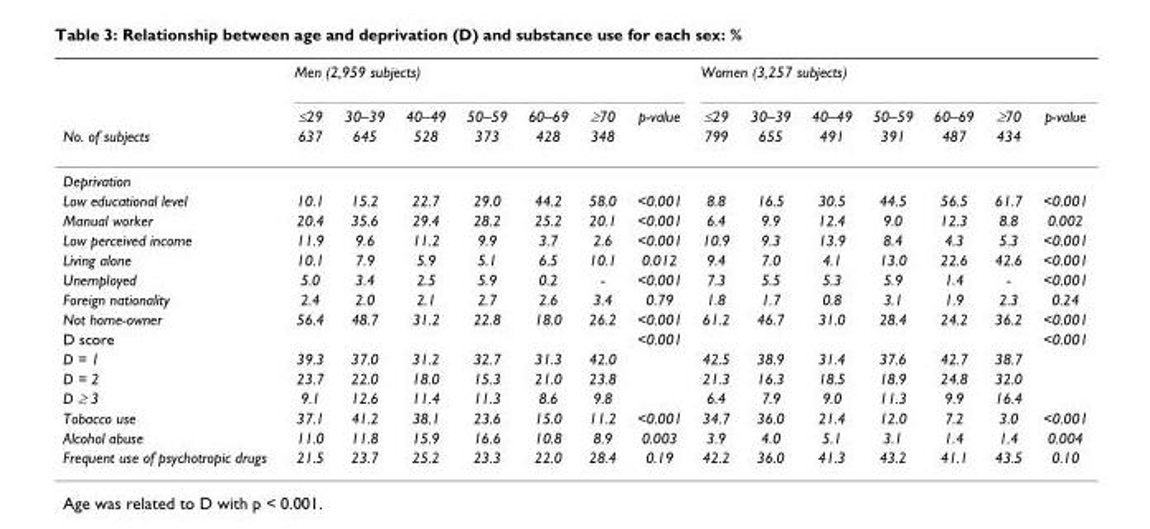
<table><thead><tr><td rowspan="3">No. of subjects</td><td colspan="7">Men (2,959 subjects)</td><td colspan="7">Women (3,257 subjects)</td></tr><tr><td rowspan="2">≤29 637</td><td rowspan="2">30–39 645</td><td rowspan="2">40–49 528</td><td rowspan="2">50–59 373</td><td rowspan="2">60–69 428</td><td rowspan="2">≥70 348</td><td rowspan="2">p-value</td><td rowspan="2">≤29 799</td><td rowspan="2">30–39 655</td><td rowspan="2">40–49 491</td><td rowspan="2">50–59 391</td><td rowspan="2">60–69 487</td><td rowspan="2">≥70 434</td><td rowspan="2">p-value</td></tr><tr></tr></thead><tbody><tr><td colspan="15">Deprivation</td></tr><tr><td>Low educational level</td><td>10.1</td><td>15.2</td><td>22.7</td><td>29.0</td><td>44.2</td><td>58.0</td><td>&lt;0.001</td><td>8.8</td><td>16.5</td><td>30.5</td><td>44.5</td><td>56.5</td><td>61.7</td><td>&lt;0.001</td></tr><tr><td>Manual worker</td><td>20.4</td><td>35.6</td><td>29.4</td><td>28.2</td><td>25.2</td><td>20.1</td><td>&lt;0.001</td><td>6.4</td><td>9.9</td><td>12.4</td><td>9.0</td><td>12.3</td><td>8.8</td><td>0.002</td></tr><tr><td>Low perceived income</td><td>11.9</td><td>9.6</td><td>11.2</td><td>9.9</td><td>3.7</td><td>2.6</td><td>&lt;0.001</td><td>10.9</td><td>9.3</td><td>13.9</td><td>8.4</td><td>4.3</td><td>5.3</td><td>&lt;0.001</td></tr><tr><td>Living alone</td><td>10.1</td><td>7.9</td><td>5.9</td><td>5.1</td><td>6.5</td><td>10.1</td><td>0.012</td><td>9.4</td><td>7.0</td><td>4.1</td><td>13.0</td><td>22.6</td><td>42.6</td><td>&lt;0.001</td></tr><tr><td>Unemployed</td><td>5.0</td><td>3.4</td><td>2.5</td><td>5.9</td><td>0.2</td><td>-</td><td>&lt;0.001</td><td>7.3</td><td>5.5</td><td>5.3</td><td>5.9</td><td>1.4</td><td>-</td><td>&lt;0.001</td></tr><tr><td>Foreign nationality</td><td>2.4</td><td>2.0</td><td>2.1</td><td>2.7</td><td>2.6</td><td>3.4</td><td>0.79</td><td>1.8</td><td>1.7</td><td>0.8</td><td>3.1</td><td>1.9</td><td>2.3</td><td>0.24</td></tr><tr><td>Not home-owner</td><td>56.4</td><td>48.7</td><td>31.2</td><td>22.8</td><td>18.0</td><td>26.2</td><td>&lt;0.001</td><td>61.2</td><td>46.7</td><td>31.0</td><td>28.4</td><td>24.2</td><td>36.2</td><td>&lt;0.001</td></tr><tr><td>D score</td><td></td><td></td><td></td><td></td><td></td><td></td><td>&lt;0.001</td><td></td><td></td><td></td><td></td><td></td><td></td><td>&lt;0.001</td></tr><tr><td>D = 1</td><td>39.3</td><td>37.0</td><td>31.2</td><td>32.7</td><td>31.3</td><td>42.0</td><td></td><td>42.5</td><td>38.9</td><td>31.4</td><td>37.6</td><td>42.7</td><td>38.7</td><td></td></tr><tr><td>D = 2</td><td>23.7</td><td>22.0</td><td>18.0</td><td>15.3</td><td>21.0</td><td>23.8</td><td></td><td>21.3</td><td>16.3</td><td>18.5</td><td>18.9</td><td>24.8</td><td>32.0</td><td></td></tr><tr><td>D ≥ 3</td><td>9.1</td><td>12.6</td><td>11.4</td><td>11.3</td><td>8.6</td><td>9.8</td><td></td><td>6.4</td><td>7.9</td><td>9.0</td><td>11.3</td><td>9.9</td><td>16.4</td><td></td></tr><tr><td>Tobacco use</td><td>37.1</td><td>41.2</td><td>38.1</td><td>23.6</td><td>15.0</td><td>11.2</td><td>&lt;0.001</td><td>34.7</td><td>36.0</td><td>21.4</td><td>12.0</td><td>7.2</td><td>3.0</td><td>&lt;0.001</td></tr><tr><td>Alcohol abuse</td><td>11.0</td><td>11.8</td><td>15.9</td><td>16.6</td><td>10.8</td><td>8.9</td><td>0.003</td><td>3.9</td><td>4.0</td><td>5.1</td><td>3.1</td><td>1.4</td><td>1.4</td><td>0.004</td></tr><tr><td>Frequent use of psychotropic drugs</td><td>21.5</td><td>23.7</td><td>25.2</td><td>23.3</td><td>22.0</td><td>28.4</td><td>0.19</td><td>42.2</td><td>36.0</td><td>41.3</td><td>43.2</td><td>41.1</td><td>43.5</td><td>0.10</td></tr></tbody></table>